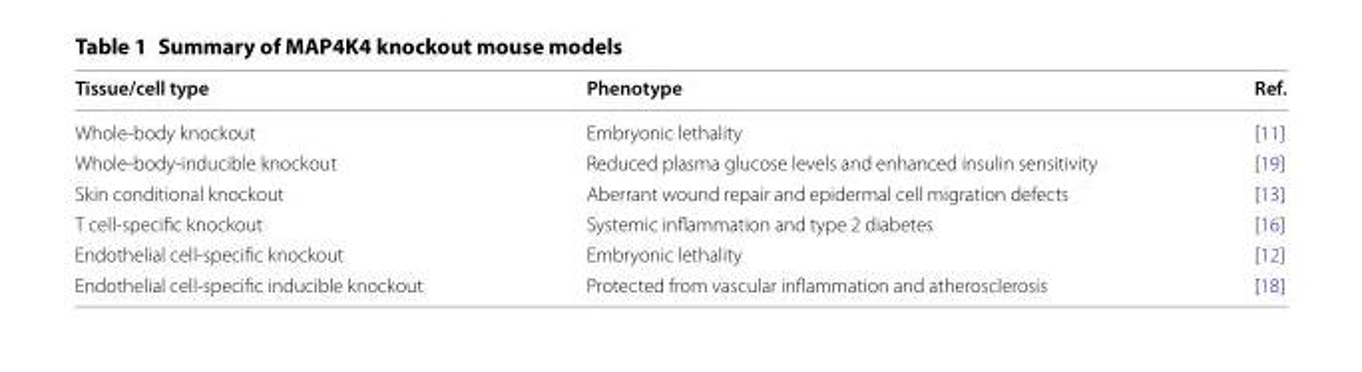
<table><thead><tr><td>Tissue/cell type</td><td>Phenotype</td><td>Ref.</td></tr></thead><tbody><tr><td>Whole-body knockout</td><td>Embryonic lethality</td><td>[11]</td></tr><tr><td>Whole-body-inducible knockout</td><td>Reduced plasma glucose levels and enhanced insulin sensitivity</td><td>[19]</td></tr><tr><td>Skin conditional knockout</td><td>Aberrant wound repair and epidermal cell migration defects</td><td>[13]</td></tr><tr><td>T cell-specific knockout</td><td>Systemic inflammation and type 2 diabetes</td><td>[16]</td></tr><tr><td>Endothelial cell-specific knockout</td><td>Embryonic lethality</td><td>[12]</td></tr><tr><td>Endothelial cell-specific inducible knockout</td><td>Protected from vascular inflammation and atherosclerosis</td><td>[18]</td></tr></tbody></table>